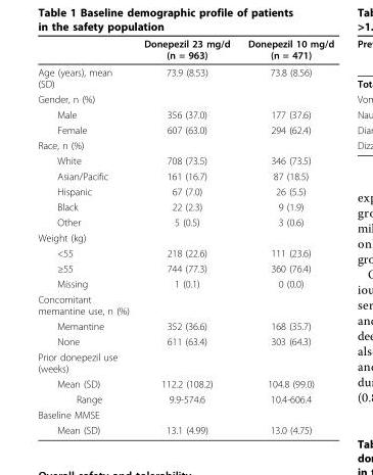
<table><thead><tr><td></td><td>Donepezil 23 mg/d (n = 963)</td><td>Donepezil 10 mg/d (n = 471)</td></tr></thead><tbody><tr><td>Age (years), mean (SD)</td><td>73.9 (8.53)</td><td>73.8 (8.56)</td></tr><tr><td colspan="3">Gender, n (%)</td></tr><tr><td>Male</td><td>356 (37.0)</td><td>177 (37.6)</td></tr><tr><td>Female</td><td>607 (63.0)</td><td>294 (62.4)</td></tr><tr><td colspan="3">Race, n (%)</td></tr><tr><td>White</td><td>708 (73.5)</td><td>346 (73.5)</td></tr><tr><td>Asian/Pacific</td><td>161 (16.7)</td><td>87 (18.5)</td></tr><tr><td>Hispanic</td><td>67 (7.0)</td><td>26 (5.5)</td></tr><tr><td>Black</td><td>22 (2.3)</td><td>9 (1.9)</td></tr><tr><td>Other</td><td>5 (0.5)</td><td>3 (0.6)</td></tr><tr><td colspan="3">Weight (kg)</td></tr><tr><td>&lt;55</td><td>218 (22.6)</td><td>111 (23.6)</td></tr><tr><td>≥55</td><td>744 (77.3)</td><td>360 (76.4)</td></tr><tr><td>Missing</td><td>1 (0.1)</td><td>0 (0.0)</td></tr><tr><td colspan="3">Concomitant memantine use, n (%)</td></tr><tr><td>Memantine</td><td>352 (36.6)</td><td>168 (35.7)</td></tr><tr><td>None</td><td>611 (63.4)</td><td>303 (64.3)</td></tr><tr><td colspan="3">Prior donepezil use (weeks)</td></tr><tr><td>Mean (SD)</td><td>112.2 (108.2)</td><td>104.8 (99.0)</td></tr><tr><td>Range</td><td>9.9-574.6</td><td>10.4-606.4</td></tr><tr><td colspan="3">Baseline MMSE</td></tr><tr><td>Mean (SD)</td><td>13.1 (4.99)</td><td>13.0 (4.75)</td></tr></tbody></table>